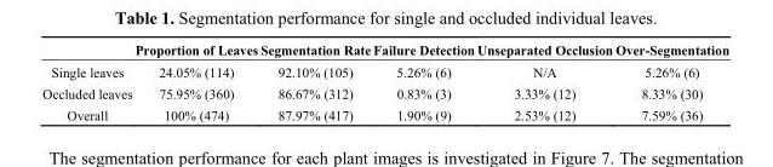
<table><thead><tr><td></td><td>Proportion of Leaves</td><td>Segmentation Rate</td><td>Failure Detection</td><td>Unseparated Occlusion</td><td>Over-Segmentation</td></tr></thead><tbody><tr><td>Single leaves</td><td>24.05% (114)</td><td>92.10% (105)</td><td>5.26% (6)</td><td>N/A</td><td>5.26% (6)</td></tr><tr><td>Occluded leaves</td><td>75.95% (360)</td><td>86.67% (312)</td><td>0.83% (3)</td><td>3.33% (12)</td><td>8.33% (30)</td></tr><tr><td>Overall</td><td>100% (474)</td><td>87.97% (417)</td><td>1.90% (9)</td><td>2.53% (12)</td><td>7.59% (36)</td></tr></tbody></table>